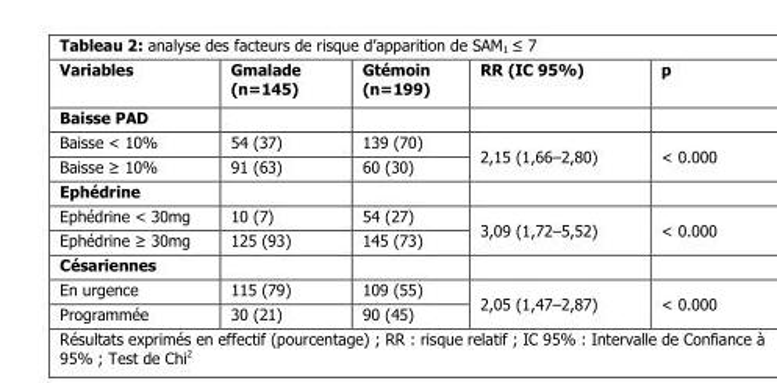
<table><thead><tr><td>Variables</td><td>Gmalade (n=145)</td><td>Gtémoin (n=199)</td><td>RR (IC 95%)</td><td>p</td></tr></thead><tbody><tr><td colspan="5">Baisse PAD</td></tr><tr><td>Baisse &lt; 10%</td><td>54 (37)</td><td>139 (70)</td><td rowspan="2">2,15 (1,66–2,80)</td><td rowspan="2">&lt; 0.000</td></tr><tr><td>Baisse ≥ 10%</td><td>91 (63)</td><td>60 (30)</td></tr><tr><td colspan="5">Ephédrine</td></tr><tr><td>Ephédrine &lt; 30mg</td><td>10 (7)</td><td>54 (27)</td><td rowspan="2">3,09 (1,72–5,52)</td><td rowspan="2">&lt; 0.000</td></tr><tr><td>Ephédrine ≥ 30mg</td><td>125 (93)</td><td>145 (73)</td></tr><tr><td colspan="5">Césariennes</td></tr><tr><td>En urgence</td><td>115 (79)</td><td>109 (55)</td><td rowspan="2">2,05 (1,47–2,87)</td><td rowspan="2">&lt; 0.000</td></tr><tr><td>Programmée</td><td>30 (21)</td><td>90 (45)</td></tr></tbody></table>